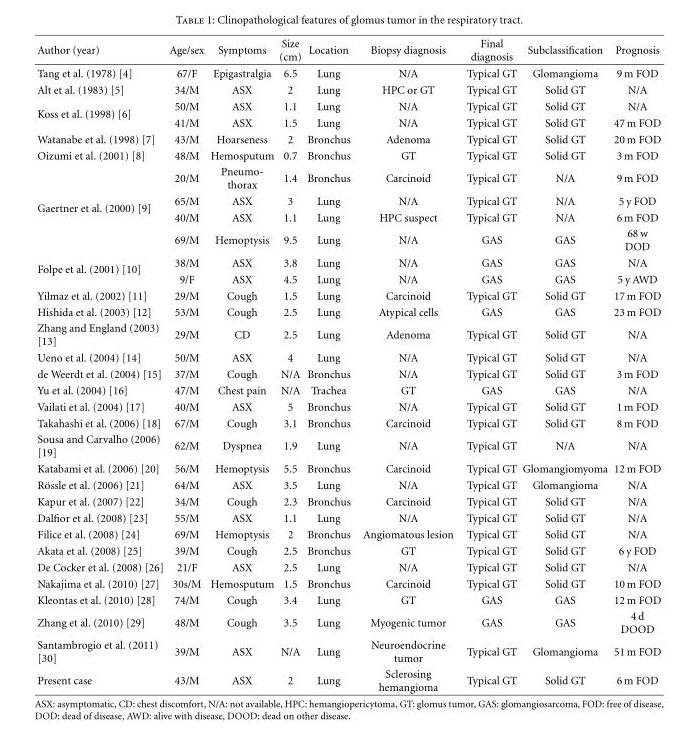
<table><thead><tr><td>Author (year)</td><td>Age/sex</td><td>Symptoms</td><td>Size (cm)</td><td>Location</td><td>Biopsy diagnosis</td><td>Final diagnosis</td><td>Subclassification</td><td>Prognosis</td></tr></thead><tbody><tr><td>Tang et al. (1978) [4]</td><td>67/F</td><td>Epigastralgia</td><td>6.5</td><td>Lung</td><td>N/A</td><td>Typical GT</td><td>Glomangioma</td><td>9 m FOD</td></tr><tr><td>Alt et al. (1983) [5]</td><td>34/M</td><td>ASX</td><td>2</td><td>Lung</td><td>HPC or GT</td><td>Typical GT</td><td>Solid GT</td><td>N/A</td></tr><tr><td rowspan="2">Koss et al. (1998) [6]</td><td>50/M</td><td>ASX</td><td>1.1</td><td>Lung</td><td>N/A</td><td>Typical GT</td><td>Solid GT</td><td>N/A</td></tr><tr><td>41/M</td><td>ASX</td><td>1.5</td><td>Lung</td><td>N/A</td><td>Typical GT</td><td>Solid GT</td><td>47 m FOD</td></tr><tr><td>Watanabe et al. (1998) [7]</td><td>43/M</td><td>Hoarseness</td><td>2</td><td>Bronchus</td><td>Adenoma</td><td>Typical GT</td><td>Solid GT</td><td>20 m FOD</td></tr><tr><td>Oizumi et al. (2001) [8]</td><td>48/M</td><td>Hemosputum</td><td>0.7</td><td>Bronchus</td><td>GT</td><td>Typical GT</td><td>Solid GT</td><td>3 m FOD</td></tr><tr><td rowspan="4">Gaertner et al. (2000) [9]</td><td>20/M</td><td>Pneumo- thorax</td><td>1.4</td><td>Bronchus</td><td>Carcinoid</td><td>Typical GT</td><td>N/A</td><td>9 m FOD</td></tr><tr><td>65/M</td><td>ASX</td><td>3</td><td>Lung</td><td>N/A</td><td>Typical GT</td><td>N/A</td><td>5 y FOD</td></tr><tr><td>40/M</td><td>ASX</td><td>1.1</td><td>Lung</td><td>HPC suspect</td><td>Typical GT</td><td>N/A</td><td>6 m FOD</td></tr><tr><td>69/M</td><td>Hemoptysis</td><td>9.5</td><td>Lung</td><td>N/A</td><td>GAS</td><td>GAS</td><td>68 w DOD</td></tr><tr><td rowspan="2">Folpe et al. (2001) [10]</td><td>38/M</td><td>ASX</td><td>3.8</td><td>Lung</td><td>N/A</td><td>GAS</td><td>GAS</td><td>N/A</td></tr><tr><td>9/F</td><td>ASX</td><td>4.5</td><td>Lung</td><td>N/A</td><td>GAS</td><td>GAS</td><td>5 y AWD</td></tr><tr><td>Yilmaz et al. (2002) [11]</td><td>29/M</td><td>Cough</td><td>1.5</td><td>Lung</td><td>Carcinoid</td><td>Typical GT</td><td>Solid GT</td><td>17 m FOD</td></tr><tr><td>Hishida et al. (2003) [12]</td><td>53/M</td><td>Cough</td><td>2.5</td><td>Lung</td><td>Atypical cells</td><td>GAS</td><td>GAS</td><td>23 m FOD</td></tr><tr><td>Zhang and England (2003) [13]</td><td>29/M</td><td>CD</td><td>2.5</td><td>Lung</td><td>Adenoma</td><td>Typical GT</td><td>Solid GT</td><td>N/A</td></tr><tr><td>Ueno et al. (2004) [14]</td><td>50/M</td><td>ASX</td><td>4</td><td>Lung</td><td>N/A</td><td>Typical GT</td><td>Solid GT</td><td>N/A</td></tr><tr><td>de Weerdt et al. (2004) [15]</td><td>37/M</td><td>Cough</td><td>N/A</td><td>Bronchus</td><td>N/A</td><td>Typical GT</td><td>Solid GT</td><td>3 m FOD</td></tr><tr><td>Yu et al. (2004) [16]</td><td>47/M</td><td>Chest pain</td><td>N/A</td><td>Trachea</td><td>GT</td><td>GAS</td><td>GAS</td><td>N/A</td></tr><tr><td>Vailati et al. (2004) [17]</td><td>40/M</td><td>ASX</td><td>5</td><td>Bronchus</td><td>N/A</td><td>Typical GT</td><td>Solid GT</td><td>1 m FOD</td></tr><tr><td>Takahashi et al. (2006) [18]</td><td>67/M</td><td>Cough</td><td>3.1</td><td>Bronchus</td><td>Carcinoid</td><td>Typical GT</td><td>Solid GT</td><td>8 m FOD</td></tr><tr><td>Sousa and Carvalho (2006) [19]</td><td>62/M</td><td>Dyspnea</td><td>1.9</td><td>Lung</td><td>N/A</td><td>Typical GT</td><td>N/A</td><td>N/A</td></tr><tr><td>Katabami et al. (2006) [20]</td><td>56/M</td><td>Hemoptysis</td><td>5.5</td><td>Bronchus</td><td>Carcinoid</td><td>Typical GT</td><td>Glomangiomyoma</td><td>12 m FOD</td></tr><tr><td>R¨ossle et al. (2006) [21]</td><td>64/M</td><td>ASX</td><td>3.5</td><td>Lung</td><td>N/A</td><td>Typical GT</td><td>Glomangioma</td><td>N/A</td></tr><tr><td>Kapur et al. (2007) [22]</td><td>34/M</td><td>Cough</td><td>2.3</td><td>Bronchus</td><td>Carcinoid</td><td>Typical GT</td><td>Solid GT</td><td>N/A</td></tr><tr><td>Dalfior et al. (2008) [23]</td><td>55/M</td><td>ASX</td><td>1.1</td><td>Lung</td><td>N/A</td><td>Typical GT</td><td>Solid GT</td><td>N/A</td></tr><tr><td>Filice et al. (2008) [24]</td><td>69/M</td><td>Hemoptysis</td><td>2</td><td>Bronchus</td><td>Angiomatous lesion</td><td>Typical GT</td><td>Solid GT</td><td>N/A</td></tr><tr><td>Akata et al. (2008) [25]</td><td>39/M</td><td>Cough</td><td>2.5</td><td>Bronchus</td><td>GT</td><td>Typical GT</td><td>Solid GT</td><td>6 y FOD</td></tr><tr><td>De Cocker et al. (2008) [26]</td><td>21/F</td><td>ASX</td><td>2.5</td><td>Lung</td><td>N/A</td><td>Typical GT</td><td>Solid GT</td><td>N/A</td></tr><tr><td>Nakajima et al. (2010) [27]</td><td>30s/M</td><td>Hemosputum</td><td>1.5</td><td>Bronchus</td><td>Carcinoid</td><td>Typical GT</td><td>Solid GT</td><td>10 m FOD</td></tr><tr><td>Kleontas et al. (2010) [28]</td><td>74/M</td><td>Cough</td><td>3.4</td><td>Lung</td><td>GT</td><td>GAS</td><td>GAS</td><td>12 m FOD</td></tr><tr><td>Zhang et al. (2010) [29]</td><td>48/M</td><td>Cough</td><td>3.5</td><td>Lung</td><td>Myogenic tumor</td><td>GAS</td><td>GAS</td><td>4 d DOOD</td></tr><tr><td>Santambrogio et al. (2011) [30]</td><td>39/M</td><td>ASX</td><td>N/A</td><td>Lung</td><td>Neuroendocrine tumor</td><td>Typical GT</td><td>Glomangioma</td><td>51 m FOD</td></tr><tr><td>Present case</td><td>43/M</td><td>ASX</td><td>2</td><td>Lung</td><td>Sclerosing hemangioma</td><td>Typical GT</td><td>Solid GT</td><td>6 m FOD</td></tr></tbody></table>